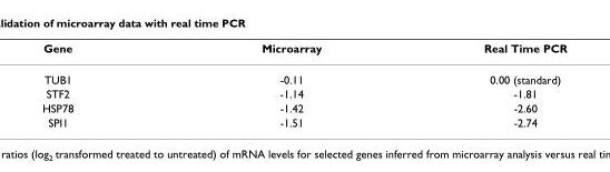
<table><thead><tr><td>Gene</td><td>Microarray</td><td>Real Time PCR</td></tr></thead><tbody><tr><td>TUB1</td><td>-0.11</td><td>0.00 (standard)</td></tr><tr><td>STF2</td><td>-1.14</td><td>-1.81</td></tr><tr><td>HSP78</td><td>-1.42</td><td>-2.60</td></tr><tr><td>SPI1</td><td>-1.51</td><td>-2.74</td></tr></tbody></table>